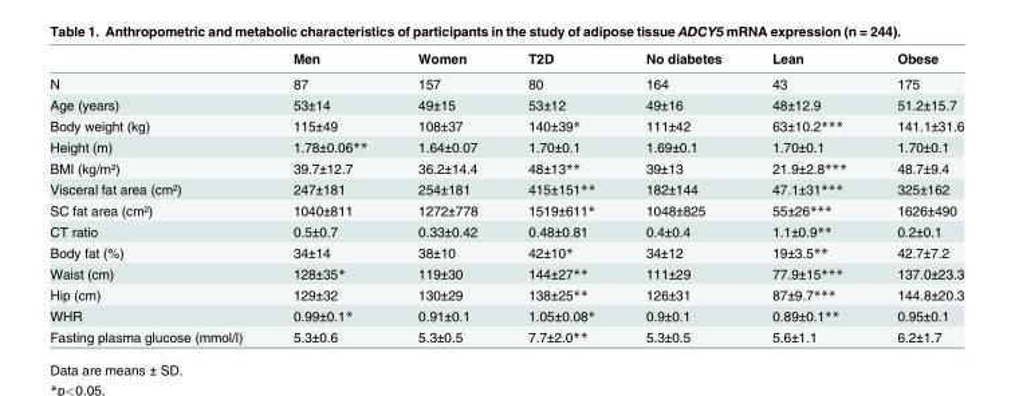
<table><thead><tr><td></td><td>Men</td><td>Women</td><td>T2D</td><td>No diabetes</td><td>Lean</td><td>Obese</td></tr></thead><tbody><tr><td>N</td><td>87</td><td>157</td><td>80</td><td>164</td><td>43</td><td>175</td></tr><tr><td>Age (years)</td><td>53±14</td><td>49±15</td><td>53±12</td><td>49±16</td><td>48±12.9</td><td>51.2±15.7</td></tr><tr><td>Body weight (kg)</td><td>115±49</td><td>108±37</td><td>140±39*</td><td>111±42</td><td>63±10.2***</td><td>141.1±31.6</td></tr><tr><td>Height (m)</td><td>1.78±0.06**</td><td>1.64±0.07</td><td>1.70±0.1</td><td>1.69±0.1</td><td>1.70±0.1</td><td>1.70±0.1</td></tr><tr><td>BMI (kg/m²)</td><td>39.7±12.7</td><td>36.2±14.4</td><td>48±13**</td><td>39±13</td><td>21.9±2.8***</td><td>48.7±9.4</td></tr><tr><td>Visceral fat area (cm²)</td><td>247±181</td><td>254±181</td><td>415±151**</td><td>182±144</td><td>47.1±31***</td><td>325±162</td></tr><tr><td>SC fat area (cm²)</td><td>1040±811</td><td>1272±778</td><td>1519±611*</td><td>1048±825</td><td>55±26***</td><td>1626±490</td></tr><tr><td>CT ratio</td><td>0.5±0.7</td><td>0.33±0.42</td><td>0.48±0.81</td><td>0.4±0.4</td><td>1.1±0.9**</td><td>0.2±0.1</td></tr><tr><td>Body fat (%)</td><td>34±14</td><td>38±10</td><td>42±10*</td><td>34±12</td><td>19±3.5**</td><td>42.7±7.2</td></tr><tr><td>Waist (cm)</td><td>128±35*</td><td>119±30</td><td>144±27**</td><td>111±29</td><td>77.9±15***</td><td>137.0±23.3</td></tr><tr><td>Hip (cm)</td><td>129±32</td><td>130±29</td><td>138±25**</td><td>126±31</td><td>87±9.7***</td><td>144.8±20.3</td></tr><tr><td>WHR</td><td>0.99±0.1*</td><td>0.91±0.1</td><td>1.05±0.08*</td><td>0.9±0.1</td><td>0.89±0.1**</td><td>0.95±0.1</td></tr><tr><td>Fasting plasma glucose (mmol/l)</td><td>5.3±0.6</td><td>5.3±0.5</td><td>7.7±2.0**</td><td>5.3±0.5</td><td>5.6±1.1</td><td>6.2±1.7</td></tr></tbody></table>